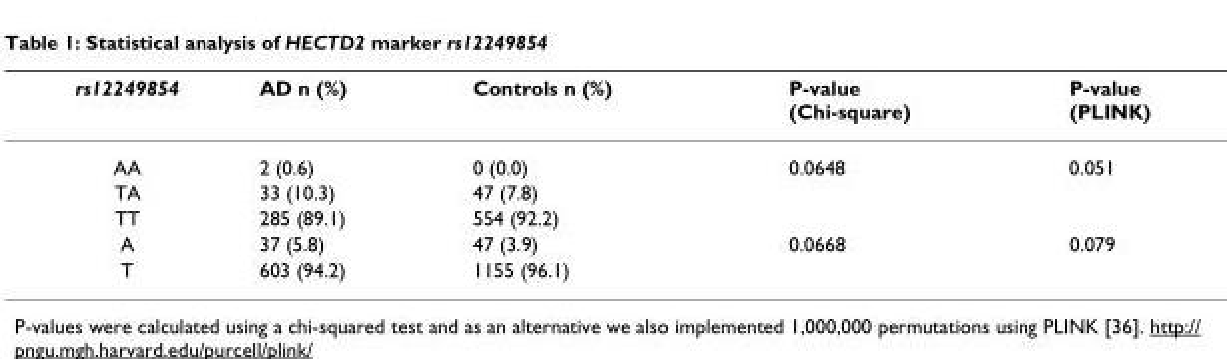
<table><thead><tr><td>rs12249854</td><td>AD n (%)</td><td>Controls n (%)</td><td>P-value (Chi-square)</td><td>P-value (PLINK)</td></tr></thead><tbody><tr><td>AA</td><td>2 (0.6)</td><td>0 (0.0)</td><td>0.0648</td><td>0.051</td></tr><tr><td>TA</td><td>33 (10.3)</td><td>47 (7.8)</td><td></td><td></td></tr><tr><td>TT</td><td>285 (89.1)</td><td>554 (92.2)</td><td></td><td></td></tr><tr><td>A</td><td>37 (5.8)</td><td>47 (3.9)</td><td>0.0668</td><td>0.079</td></tr><tr><td>T</td><td>603 (94.2)</td><td>1155 (96.1)</td><td></td><td></td></tr></tbody></table>